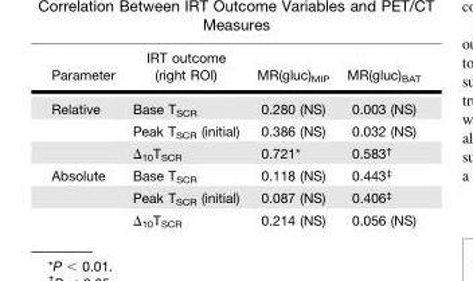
<table><thead><tr><td>Parameter</td><td>IRT outcome (right ROI)</td><td>MR(gluc)<sub>MIP</sub></td><td>MR(gluc)<sub>BAT</sub></td></tr></thead><tbody><tr><td rowspan="3">Relative</td><td>Base T<sub>SCR</sub></td><td>0.280 (NS)</td><td>0.003 (NS)</td></tr><tr><td>Peak T<sub>SCR</sub> (initial)</td><td>0.386 (NS)</td><td>0.032 (NS)</td></tr><tr><td>Δ<sub>10</sub>T<sub>SCR</sub></td><td>0.721*</td><td>0.583<sup>†</sup></td></tr><tr><td rowspan="3">Absolute</td><td>Base T<sub>SCR</sub></td><td>0.118 (NS)</td><td>0.443<sup>‡</sup></td></tr><tr><td>Peak T<sub>SCR</sub> (initial)</td><td>0.087 (NS)</td><td>0.406<sup>‡</sup></td></tr><tr><td>Δ<sub>10</sub>T<sub>SCR</sub></td><td>0.214 (NS)</td><td>0.056 (NS)</td></tr></tbody></table>